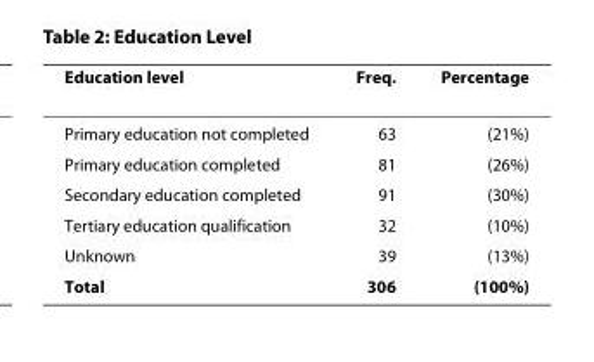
<table><thead><tr><td>Education level</td><td>Freq.</td><td>Percentage</td></tr></thead><tbody><tr><td>Primary education not completed</td><td>63</td><td>(21%)</td></tr><tr><td>Primary education completed</td><td>81</td><td>(26%)</td></tr><tr><td>Secondary education completed</td><td>91</td><td>(30%)</td></tr><tr><td>Tertiary education qualification</td><td>32</td><td>(10%)</td></tr><tr><td>Unknown</td><td>39</td><td>(13%)</td></tr><tr><td>Total</td><td>306</td><td>(100%)</td></tr></tbody></table>